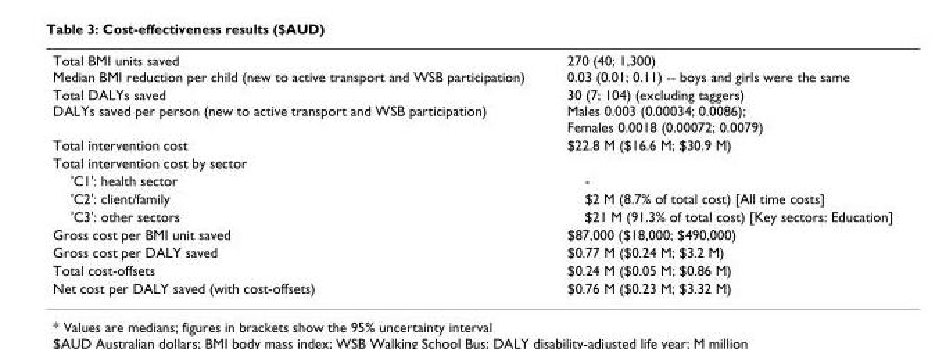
<table><tbody><tr><td>Total BMI units saved Median BMI reduction per child (new to active transport and WSB participation)</td><td>270 (40; 1,300) 0.03 (0.01; 0.11) -- boys and girls were the same</td></tr><tr><td>Total DALYs saved DALYs saved per person (new to active transport and WSB participation)</td><td>30 (7; 104) (excluding taggers) Males 0.003 (0.00034; 0.0086); Females 0.0018 (0.00072; 0.0079)</td></tr><tr><td>Total intervention cost</td><td>$22.8 M ($16.6 M; $30.9 M)</td></tr><tr><td colspan="2">Total intervention cost by sector</td></tr><tr><td>&#x27;C1&#x27;: health sector</td><td>-</td></tr><tr><td>&#x27;C2&#x27;: client/family</td><td>$2 M (8.7% of total cost) [All time costs]</td></tr><tr><td>&#x27;C3&#x27;: other sectors</td><td>$21 M (91.3% of total cost) [Key sectors: Education]</td></tr><tr><td>Gross cost per BMI unit saved</td><td>$87,000 ($18,000; $490,000)</td></tr><tr><td>Gross cost per DALY saved</td><td>$0.77 M ($0.24 M; $3.2 M)</td></tr><tr><td>Total cost-offsets</td><td>$0.24 M ($0.05 M; $0.86 M)</td></tr><tr><td>Net cost per DALY saved (with cost-offsets)</td><td>$0.76 M ($0.23 M; $3.32 M)</td></tr></tbody></table>